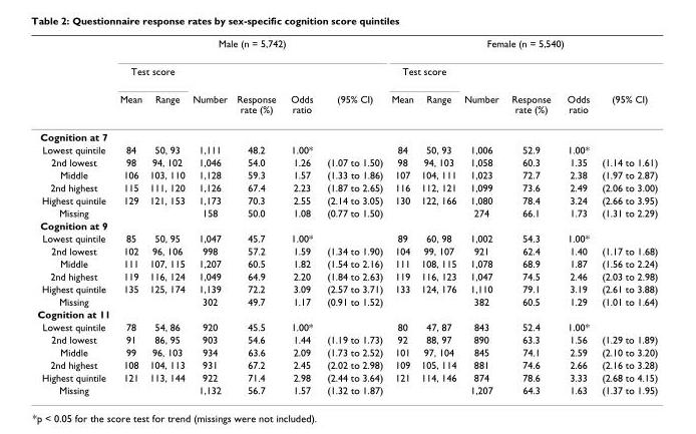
<table><thead><tr><td rowspan="3"></td><td colspan="6">Male (n = 5,742)</td><td colspan="6">Female (n = 5,540)</td></tr><tr><td colspan="2">Test score</td><td rowspan="2">Number</td><td rowspan="2">Response rate (%)</td><td rowspan="2">Odds ratio</td><td rowspan="2">(95% CI)</td><td colspan="2">Test score</td><td rowspan="2">Number</td><td rowspan="2">Response rate (%)</td><td rowspan="2">Odds ratio</td><td rowspan="2">(95% CI)</td></tr><tr><td>Mean</td><td>Range</td><td>Mean</td><td>Range</td></tr></thead><tbody><tr><td colspan="13">Cognition at 7</td></tr><tr><td>Lowest quintile</td><td>84</td><td>50, 93</td><td>1,111</td><td>48.2</td><td>1.00*</td><td></td><td>84</td><td>50, 93</td><td>1,006</td><td>52.9</td><td>1.00*</td><td></td></tr><tr><td>2nd lowest</td><td>98</td><td>94, 102</td><td>1,046</td><td>54.0</td><td>1.26</td><td>(1.07 to 1.50)</td><td>98</td><td>94, 103</td><td>1,058</td><td>60.3</td><td>1.35</td><td>(1.14 to 1.61)</td></tr><tr><td>Middle</td><td>106</td><td>103, 110</td><td>1,128</td><td>59.3</td><td>1.57</td><td>(1.33 to 1.86)</td><td>107</td><td>104, 111</td><td>1,023</td><td>72.7</td><td>2.38</td><td>(1.97 to 2.87)</td></tr><tr><td>2nd highest</td><td>115</td><td>111, 120</td><td>1,126</td><td>67.4</td><td>2.23</td><td>(1.87 to 2.65)</td><td>116</td><td>112, 121</td><td>1,099</td><td>73.6</td><td>2.49</td><td>(2.06 to 3.00)</td></tr><tr><td>Highest quintile</td><td>129</td><td>121, 153</td><td>1,173</td><td>70.3</td><td>2.55</td><td>(2.14 to 3.05)</td><td>130</td><td>122, 166</td><td>1,080</td><td>78.4</td><td>3.24</td><td>(2.66 to 3.95)</td></tr><tr><td>Missing</td><td></td><td></td><td>158</td><td>50.0</td><td>1.08</td><td>(0.77 to 1.50)</td><td></td><td></td><td>274</td><td>66.1</td><td>1.73</td><td>(1.31 to 2.29)</td></tr><tr><td colspan="13">Cognition at 9</td></tr><tr><td>Lowest quintile</td><td>85</td><td>50, 95</td><td>1,047</td><td>45.7</td><td>1.00*</td><td></td><td>89</td><td>60, 98</td><td>1,002</td><td>54.3</td><td>1.00*</td><td></td></tr><tr><td>2nd lowest</td><td>102</td><td>96, 106</td><td>998</td><td>57.2</td><td>1.59</td><td>(1.34 to 1.90)</td><td>104</td><td>99, 107</td><td>921</td><td>62.4</td><td>1.40</td><td>(1.17 to 1.68)</td></tr><tr><td>Middle</td><td>111</td><td>107, 115</td><td>1,207</td><td>60.5</td><td>1.82</td><td>(1.54 to 2.16)</td><td>111</td><td>108, 115</td><td>1,078</td><td>68.9</td><td>1.87</td><td>(1.56 to 2.24)</td></tr><tr><td>2nd highest</td><td>119</td><td>116, 124</td><td>1,049</td><td>64.9</td><td>2.20</td><td>(1.84 to 2.63)</td><td>119</td><td>116, 123</td><td>1,047</td><td>74.5</td><td>2.46</td><td>(2.03 to 2.98)</td></tr><tr><td>Highest quintile</td><td>135</td><td>125, 174</td><td>1,139</td><td>72.2</td><td>3.09</td><td>(2.57 to 3.71)</td><td>133</td><td>124, 176</td><td>1,110</td><td>79.1</td><td>3.19</td><td>(2.61 to 3.88)</td></tr><tr><td>Missing</td><td></td><td></td><td>302</td><td>49.7</td><td>1.17</td><td>(0.91 to 1.52)</td><td></td><td></td><td>382</td><td>60.5</td><td>1.29</td><td>(1.01 to 1.64)</td></tr><tr><td colspan="13">Cognition at 11</td></tr><tr><td>Lowest quintile</td><td>78</td><td>54, 86</td><td>920</td><td>45.5</td><td>1.00*</td><td></td><td>80</td><td>47, 87</td><td>843</td><td>52.4</td><td>1.00*</td><td></td></tr><tr><td>2nd lowest</td><td>91</td><td>86, 95</td><td>903</td><td>54.6</td><td>1.44</td><td>(1.19 to 1.73)</td><td>92</td><td>88, 97</td><td>890</td><td>63.3</td><td>1.56</td><td>(1.29 to 1.89)</td></tr><tr><td>Middle</td><td>99</td><td>96, 103</td><td>934</td><td>63.6</td><td>2.09</td><td>(1.73 to 2.52)</td><td>101</td><td>97, 104</td><td>845</td><td>74.1</td><td>2.59</td><td>(2.10 to 3.20)</td></tr><tr><td>2nd highest</td><td>108</td><td>104, 113</td><td>931</td><td>67.2</td><td>2.45</td><td>(2.02 to 2.98)</td><td>109</td><td>105, 114</td><td>881</td><td>74.6</td><td>2.66</td><td>(2.16 to 3.28)</td></tr><tr><td>Highest quintile</td><td>121</td><td>113, 144</td><td>922</td><td>71.4</td><td>2.98</td><td>(2.44 to 3.64)</td><td>121</td><td>114, 146</td><td>874</td><td>78.6</td><td>3.33</td><td>(2.68 to 4.15)</td></tr><tr><td>Missing</td><td></td><td></td><td>1,132</td><td>56.7</td><td>1.57</td><td>(1.32 to 1.87)</td><td></td><td></td><td>1,207</td><td>64.3</td><td>1.63</td><td>(1.37 to 1.95)</td></tr></tbody></table>